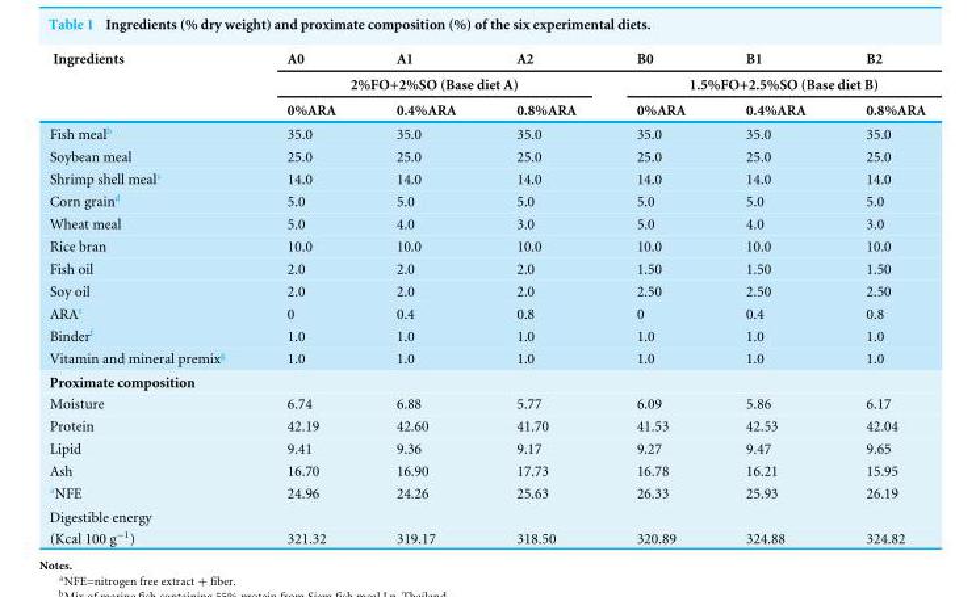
<table><thead><tr><td rowspan="3">Ingredients</td><td>A0</td><td>A1</td><td>A2</td><td>B0</td><td>B1</td><td>B2</td></tr><tr><td colspan="3">2%FO+2%SO (Base diet A)</td><td colspan="3">1.5%FO+2.5%SO (Base diet B)</td></tr><tr><td>0%ARA</td><td>0.4%ARA</td><td>0.8%ARA</td><td>0%ARA</td><td>0.4%ARA</td><td>0.8%ARA</td></tr></thead><tbody><tr><td>Fish meal<sup>b</sup></td><td>35.0</td><td>35.0</td><td>35.0</td><td>35.0</td><td>35.0</td><td>35.0</td></tr><tr><td>Soybean meal</td><td>25.0</td><td>25.0</td><td>25.0</td><td>25.0</td><td>25.0</td><td>25.0</td></tr><tr><td>Shrimp shell meal<sup>c</sup></td><td>14.0</td><td>14.0</td><td>14.0</td><td>14.0</td><td>14.0</td><td>14.0</td></tr><tr><td>Corn grain<sup>d</sup></td><td>5.0</td><td>5.0</td><td>5.0</td><td>5.0</td><td>5.0</td><td>5.0</td></tr><tr><td>Wheat meal</td><td>5.0</td><td>4.0</td><td>3.0</td><td>5.0</td><td>4.0</td><td>3.0</td></tr><tr><td>Rice bran</td><td>10.0</td><td>10.0</td><td>10.0</td><td>10.0</td><td>10.0</td><td>10.0</td></tr><tr><td>Fish oil</td><td>2.0</td><td>2.0</td><td>2.0</td><td>1.50</td><td>1.50</td><td>1.50</td></tr><tr><td>Soy oil</td><td>2.0</td><td>2.0</td><td>2.0</td><td>2.50</td><td>2.50</td><td>2.50</td></tr><tr><td>ARA<sup>e</sup></td><td>0</td><td>0.4</td><td>0.8</td><td>0</td><td>0.4</td><td>0.8</td></tr><tr><td>Binder<sup>f</sup></td><td>1.0</td><td>1.0</td><td>1.0</td><td>1.0</td><td>1.0</td><td>1.0</td></tr><tr><td>Vitamin and mineral premix<sup>g</sup></td><td>1.0</td><td>1.0</td><td>1.0</td><td>1.0</td><td>1.0</td><td>1.0</td></tr><tr><td colspan="7">Proximate composition</td></tr><tr><td>Moisture</td><td>6.74</td><td>6.88</td><td>5.77</td><td>6.09</td><td>5.86</td><td>6.17</td></tr><tr><td>Protein</td><td>42.19</td><td>42.60</td><td>41.70</td><td>41.53</td><td>42.53</td><td>42.04</td></tr><tr><td>Lipid</td><td>9.41</td><td>9.36</td><td>9.17</td><td>9.27</td><td>9.47</td><td>9.65</td></tr><tr><td>Ash</td><td>16.70</td><td>16.90</td><td>17.73</td><td>16.78</td><td>16.21</td><td>15.95</td></tr><tr><td><sup>a</sup>NFE</td><td>24.96</td><td>24.26</td><td>25.63</td><td>26.33</td><td>25.93</td><td>26.19</td></tr><tr><td colspan="7">Digestible energy</td></tr><tr><td>(Kcal 100 g<sup>−1</sup>)</td><td>321.32</td><td>319.17</td><td>318.50</td><td>320.89</td><td>324.88</td><td>324.82</td></tr></tbody></table>